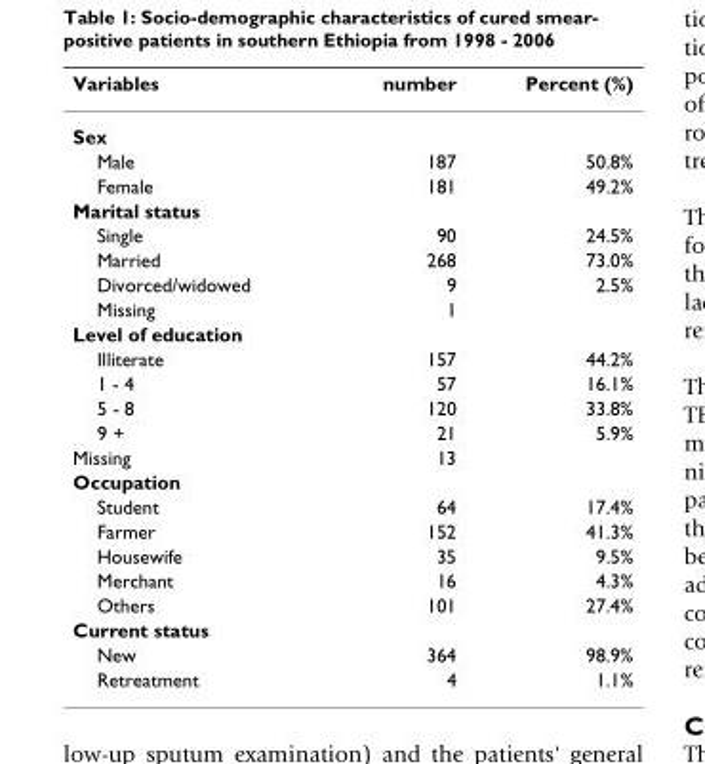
<table><thead><tr><td>Variables</td><td>number</td><td>Percent (%)</td></tr></thead><tbody><tr><td colspan="3">Sex</td></tr><tr><td>Male</td><td>187</td><td>50.8%</td></tr><tr><td>Female</td><td>181</td><td>49.2%</td></tr><tr><td colspan="3">Marital status</td></tr><tr><td>Single</td><td>90</td><td>24.5%</td></tr><tr><td>Married</td><td>268</td><td>73.0%</td></tr><tr><td>Divorced/widowed</td><td>9</td><td>2.5%</td></tr><tr><td>Missing</td><td>1</td><td></td></tr><tr><td colspan="3">Level of education</td></tr><tr><td>Illiterate</td><td>157</td><td>44.2%</td></tr><tr><td>1 - 4</td><td>57</td><td>16.1%</td></tr><tr><td>5 - 8</td><td>120</td><td>33.8%</td></tr><tr><td>9 +</td><td>21</td><td>5.9%</td></tr><tr><td>Missing</td><td>13</td><td></td></tr><tr><td colspan="3">Occupation</td></tr><tr><td>Student</td><td>64</td><td>17.4%</td></tr><tr><td>Farmer</td><td>152</td><td>41.3%</td></tr><tr><td>Housewife</td><td>35</td><td>9.5%</td></tr><tr><td>Merchant</td><td>16</td><td>4.3%</td></tr><tr><td>Others</td><td>101</td><td>27.4%</td></tr><tr><td colspan="3">Current status</td></tr><tr><td>New</td><td>364</td><td>98.9%</td></tr><tr><td>Retreatment</td><td>4</td><td>1.1%</td></tr></tbody></table>